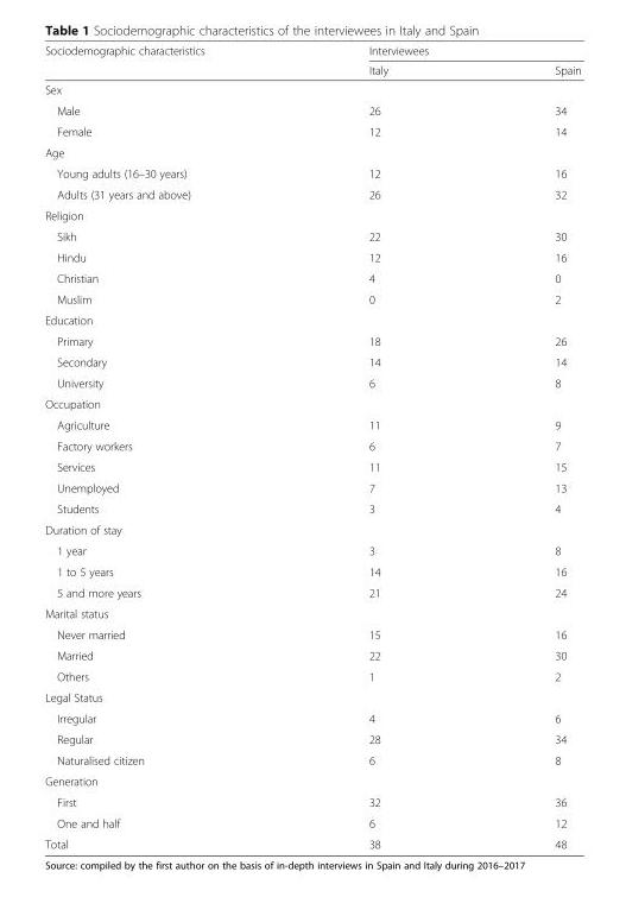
<table><thead><tr><td rowspan="2">Sociodemographic characteristics</td><td colspan="2">Interviewees</td></tr><tr><td>Italy</td><td>Spain</td></tr></thead><tbody><tr><td colspan="3">Sex</td></tr><tr><td>Male</td><td>26</td><td>34</td></tr><tr><td>Female</td><td>12</td><td>14</td></tr><tr><td colspan="3">Age</td></tr><tr><td>Young adults (16–30 years)</td><td>12</td><td>16</td></tr><tr><td>Adults (31 years and above)</td><td>26</td><td>32</td></tr><tr><td colspan="3">Religion</td></tr><tr><td>Sikh</td><td>22</td><td>30</td></tr><tr><td>Hindu</td><td>12</td><td>16</td></tr><tr><td>Christian</td><td>4</td><td>0</td></tr><tr><td>Muslim</td><td>0</td><td>2</td></tr><tr><td colspan="3">Education</td></tr><tr><td>Primary</td><td>18</td><td>26</td></tr><tr><td>Secondary</td><td>14</td><td>14</td></tr><tr><td>University</td><td>6</td><td>8</td></tr><tr><td colspan="3">Occupation</td></tr><tr><td>Agriculture</td><td>11</td><td>9</td></tr><tr><td>Factory workers</td><td>6</td><td>7</td></tr><tr><td>Services</td><td>11</td><td>15</td></tr><tr><td>Unemployed</td><td>7</td><td>13</td></tr><tr><td>Students</td><td>3</td><td>4</td></tr><tr><td colspan="3">Duration of stay</td></tr><tr><td>1 year</td><td>3</td><td>8</td></tr><tr><td>1 to 5 years</td><td>14</td><td>16</td></tr><tr><td>5 and more years</td><td>21</td><td>24</td></tr><tr><td colspan="3">Marital status</td></tr><tr><td>Never married</td><td>15</td><td>16</td></tr><tr><td>Married</td><td>22</td><td>30</td></tr><tr><td>Others</td><td>1</td><td>2</td></tr><tr><td colspan="3">Legal Status</td></tr><tr><td>Irregular</td><td>4</td><td>6</td></tr><tr><td>Regular</td><td>28</td><td>34</td></tr><tr><td>Naturalised citizen</td><td>6</td><td>8</td></tr><tr><td colspan="3">Generation</td></tr><tr><td>First</td><td>32</td><td>36</td></tr><tr><td>One and half</td><td>6</td><td>12</td></tr><tr><td>Total</td><td>38</td><td>48</td></tr></tbody></table>